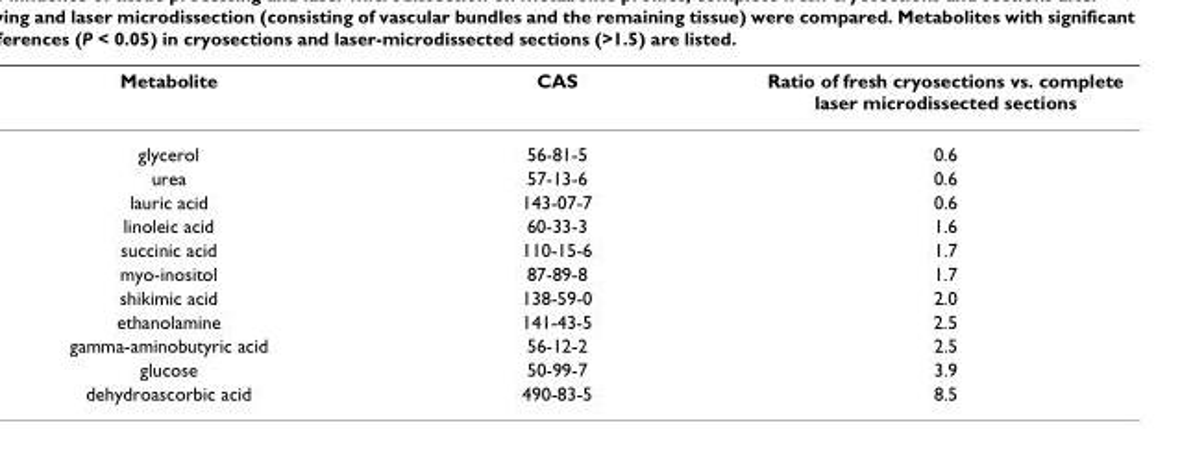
<table><thead><tr><td>Metabolite</td><td>CAS</td><td>Ratio of fresh cryosections vs. complete laser microdissected sections</td></tr></thead><tbody><tr><td>glycerol</td><td>56-81-5</td><td>0.6</td></tr><tr><td>urea</td><td>57-13-6</td><td>0.6</td></tr><tr><td>lauric acid</td><td>143-07-7</td><td>0.6</td></tr><tr><td>linoleic acid</td><td>60-33-3</td><td>1.6</td></tr><tr><td>succinic acid</td><td>110-15-6</td><td>1.7</td></tr><tr><td>myo-inositol</td><td>87-89-8</td><td>1.7</td></tr><tr><td>shikimic acid</td><td>138-59-0</td><td>2.0</td></tr><tr><td>ethanolamine</td><td>141-43-5</td><td>2.5</td></tr><tr><td>gamma-aminobutyric acid</td><td>56-12-2</td><td>2.5</td></tr><tr><td>glucose</td><td>50-99-7</td><td>3.9</td></tr><tr><td>dehydroascorbic acid</td><td>490-83-5</td><td>8.5</td></tr></tbody></table>